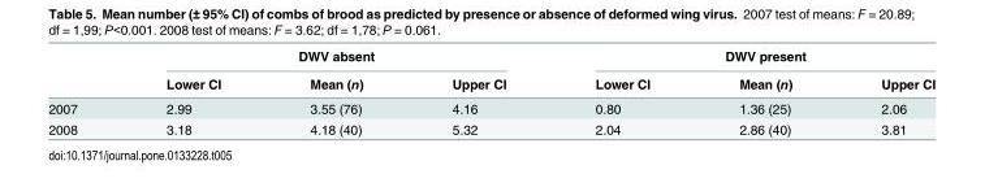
<table><thead><tr><td rowspan="2"></td><td colspan="3">DWV absent</td><td colspan="3">DWV present</td></tr><tr><td>Lower CI</td><td>Mean (n)</td><td>Upper CI</td><td>Lower CI</td><td>Mean (n)</td><td>Upper CI</td></tr></thead><tbody><tr><td>2007</td><td>2.99</td><td>3.55 (76)</td><td>4.16</td><td>0.80</td><td>1.36 (25)</td><td>2.06</td></tr><tr><td>2008</td><td>3.18</td><td>4.18 (40)</td><td>5.32</td><td>2.04</td><td>2.86 (40)</td><td>3.81</td></tr></tbody></table>